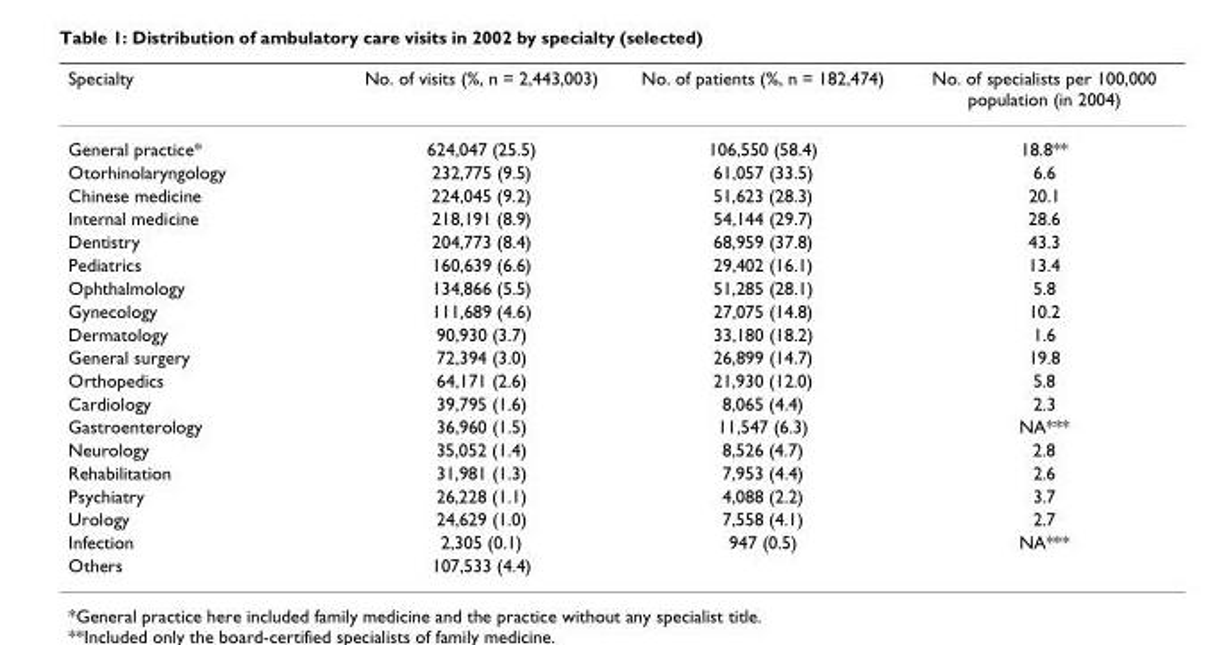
<table><thead><tr><td>Specialty</td><td>No. of visits (%, n = 2,443,003)</td><td>No. of patients (%, n = 182,474)</td><td>No. of specialists per 100,000 population (in 2004)</td></tr></thead><tbody><tr><td>General practice*</td><td>624,047 (25.5)</td><td>106,550 (58.4)</td><td>18.8**</td></tr><tr><td>Otorhinolaryngology</td><td>232,775 (9.5)</td><td>61,057 (33.5)</td><td>6.6</td></tr><tr><td>Chinese medicine</td><td>224,045 (9.2)</td><td>51,623 (28.3)</td><td>20.1</td></tr><tr><td>Internal medicine</td><td>218,191 (8.9)</td><td>54,144 (29.7)</td><td>28.6</td></tr><tr><td>Dentistry</td><td>204,773 (8.4)</td><td>68,959 (37.8)</td><td>43.3</td></tr><tr><td>Pediatrics</td><td>160,639 (6.6)</td><td>29,402 (16.1)</td><td>13.4</td></tr><tr><td>Ophthalmology</td><td>134,866 (5.5)</td><td>51,285 (28.1)</td><td>5.8</td></tr><tr><td>Gynecology</td><td>111,689 (4.6)</td><td>27,075 (14.8)</td><td>10.2</td></tr><tr><td>Dermatology</td><td>90,930 (3.7)</td><td>33,180 (18.2)</td><td>1.6</td></tr><tr><td>General surgery</td><td>72,394 (3.0)</td><td>26,899 (14.7)</td><td>19.8</td></tr><tr><td>Orthopedics</td><td>64,171 (2.6)</td><td>21,930 (12.0)</td><td>5.8</td></tr><tr><td>Cardiology</td><td>39,795 (1.6)</td><td>8,065 (4.4)</td><td>2.3</td></tr><tr><td>Gastroenterology</td><td>36,960 (1.5)</td><td>11,547 (6.3)</td><td>NA***</td></tr><tr><td>Neurology</td><td>35,052 (1.4)</td><td>8,526 (4.7)</td><td>2.8</td></tr><tr><td>Rehabilitation</td><td>31,981 (1.3)</td><td>7,953 (4.4)</td><td>2.6</td></tr><tr><td>Psychiatry</td><td>26,228 (1.1)</td><td>4,088 (2.2)</td><td>3.7</td></tr><tr><td>Urology</td><td>24,629 (1.0)</td><td>7,558 (4.1)</td><td>2.7</td></tr><tr><td>Infection</td><td>2,305 (0.1)</td><td>947 (0.5)</td><td>NA***</td></tr><tr><td>Others</td><td>107,533 (4.4)</td><td></td><td></td></tr></tbody></table>